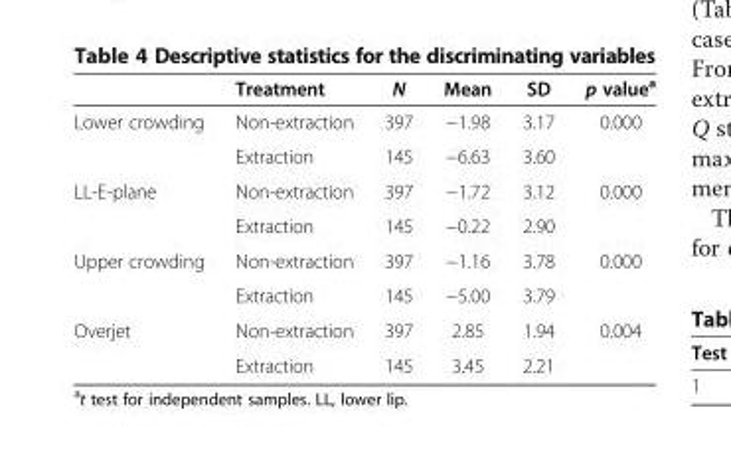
<table><thead><tr><td></td><td>Treatment</td><td>N</td><td>Mean</td><td>SD</td><td>p value<sup>a</sup></td></tr></thead><tbody><tr><td rowspan="2">Lower crowding</td><td>Non-extraction</td><td>397</td><td>−1.98</td><td>3.17</td><td rowspan="2">0.000</td></tr><tr><td>Extraction</td><td>145</td><td>−6.63</td><td>3.60</td></tr><tr><td rowspan="2">LL-E-plane</td><td>Non-extraction</td><td>397</td><td>−1.72</td><td>3.12</td><td rowspan="2">0.000</td></tr><tr><td>Extraction</td><td>145</td><td>−0.22</td><td>2.90</td></tr><tr><td rowspan="2">Upper crowding</td><td>Non-extraction</td><td>397</td><td>−1.16</td><td>3.78</td><td rowspan="2">0.000</td></tr><tr><td>Extraction</td><td>145</td><td>−5.00</td><td>3.79</td></tr><tr><td rowspan="2">Overjet</td><td>Non-extraction</td><td>397</td><td>2.85</td><td>1.94</td><td rowspan="2">0.004</td></tr><tr><td>Extraction</td><td>145</td><td>3.45</td><td>2.21</td></tr></tbody></table>